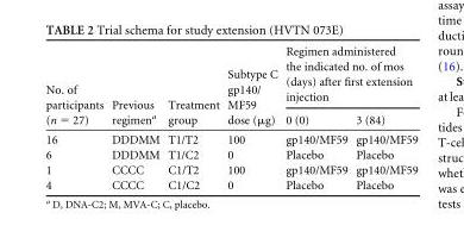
<table><thead><tr><td rowspan="2">No. of participants (n = 27)</td><td rowspan="2">Previous regimen<sup>a</sup></td><td rowspan="2">Treatment group</td><td rowspan="2">Subtype C gp140/ MF59 dose (μg)</td><td colspan="2">Regimen administered the indicated no. of mos (days) after first extension injection</td></tr><tr><td>0 (0)</td><td>3 (84)</td></tr></thead><tbody><tr><td>16</td><td>DDDMM</td><td>T1/T2</td><td>100</td><td>gp140/MF59</td><td>gp140/MF59</td></tr><tr><td>6</td><td>DDDMM</td><td>T1/C2</td><td>0</td><td>Placebo</td><td>Placebo</td></tr><tr><td>1</td><td>CCCC</td><td>C1/T2</td><td>100</td><td>gp140/MF59</td><td>gp140/MF59</td></tr><tr><td>4</td><td>CCCC</td><td>C1/C2</td><td>0</td><td>Placebo</td><td>Placebo</td></tr></tbody></table>